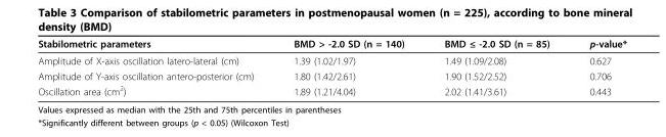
<table><thead><tr><td>Stabilometric parameters</td><td>BMD &gt; -2.0 SD (n = 140)</td><td>BMD ≤ -2.0 SD (n = 85)</td><td>p-value*</td></tr></thead><tbody><tr><td>Amplitude of X-axis oscillation latero-lateral (cm)</td><td>1.39 (1.02/1.97)</td><td>1.49 (1.09/2.08)</td><td>0.627</td></tr><tr><td>Amplitude of Y-axis oscillation antero-posterior (cm)</td><td>1.80 (1.42/2.61)</td><td>1.90 (1.52/2.52)</td><td>0.706</td></tr><tr><td>Oscillation area (cm<sup>2</sup>)</td><td>1.89 (1.21/4.04)</td><td>2.02 (1.41/3.61)</td><td>0.443</td></tr></tbody></table>